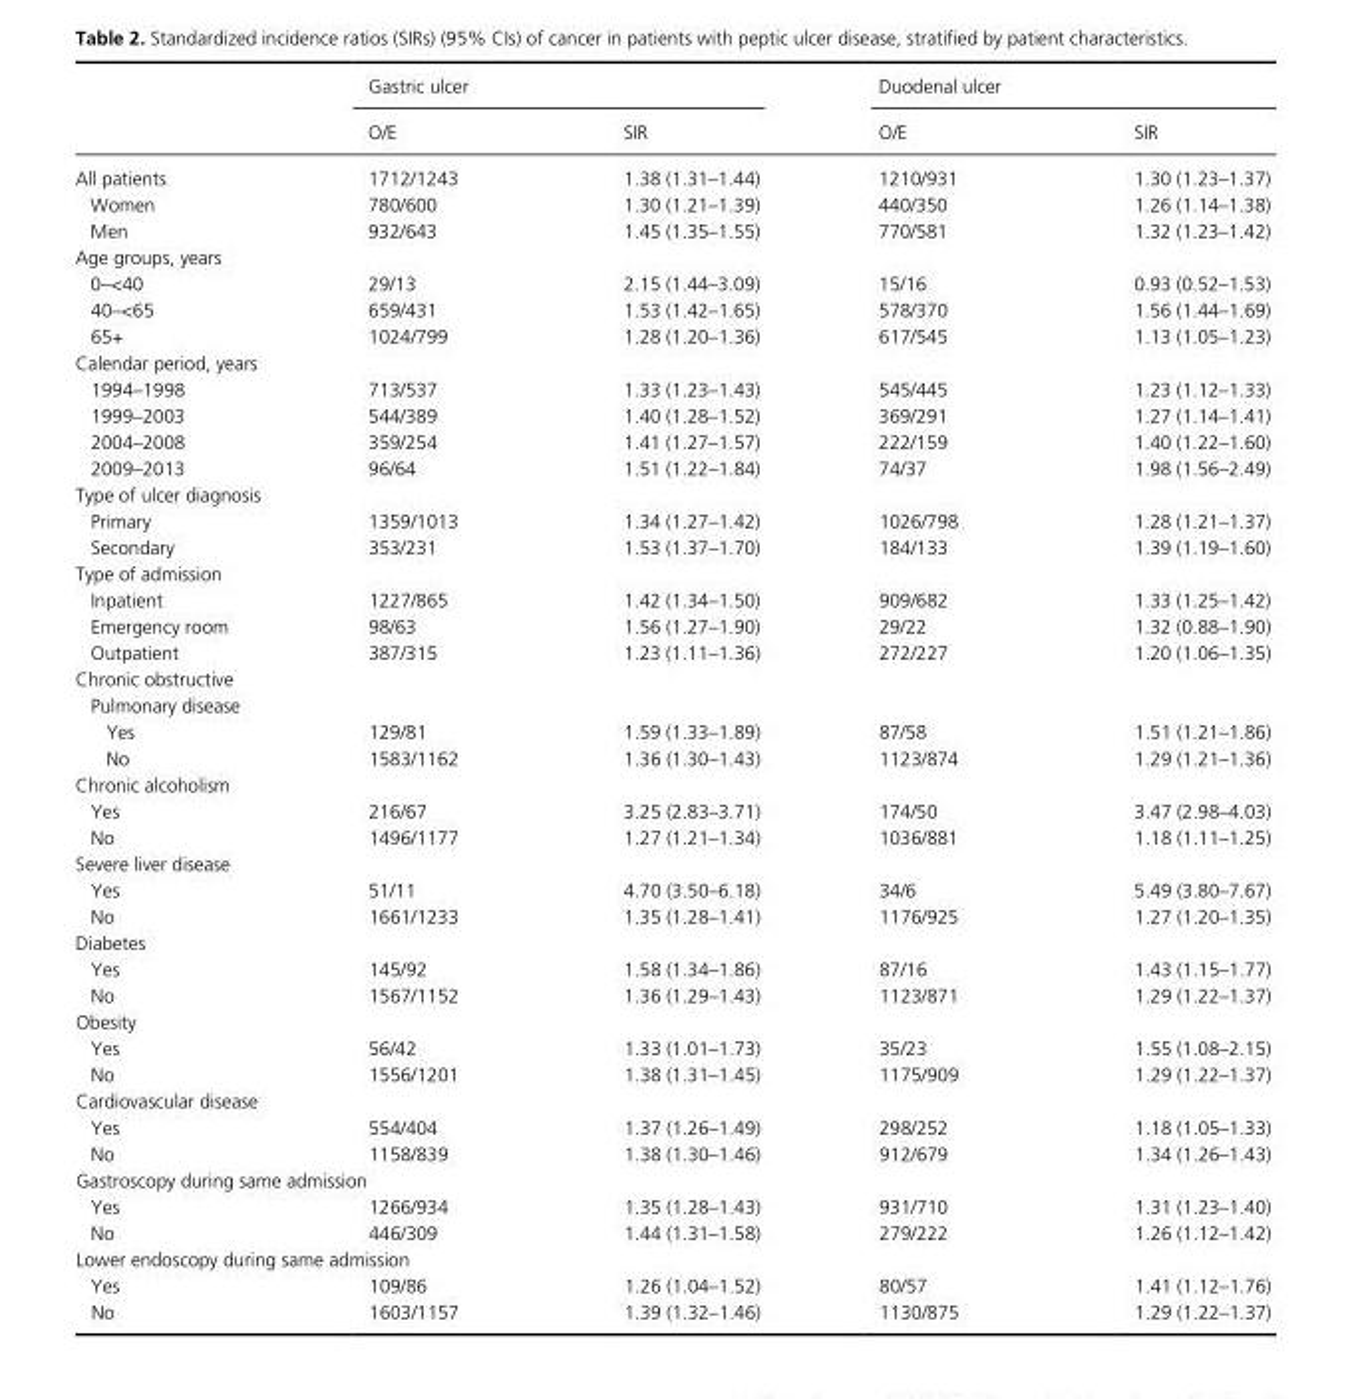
<table><thead><tr><td rowspan="2"></td><td colspan="2">Gastric ulcer</td><td colspan="2">Duodenal ulcer</td></tr><tr><td>O/E</td><td>SIR</td><td>O/E</td><td>SIR</td></tr></thead><tbody><tr><td>All patients</td><td>1712/1243</td><td>1.38 (1.31–1.44)</td><td>1210/931</td><td>1.30 (1.23–1.37)</td></tr><tr><td>Women</td><td>780/600</td><td>1.30 (1.21–1.39)</td><td>440/350</td><td>1.26 (1.14–1.38)</td></tr><tr><td>Men</td><td>932/643</td><td>1.45 (1.35–1.55)</td><td>770/581</td><td>1.32 (1.23–1.42)</td></tr><tr><td colspan="5">Age groups, years</td></tr><tr><td>0–&lt;40</td><td>29/13</td><td>2.15 (1.44–3.09)</td><td>15/16</td><td>0.93 (0.52–1.53)</td></tr><tr><td>40–&lt;65</td><td>659/431</td><td>1.53 (1.42–1.65)</td><td>578/370</td><td>1.56 (1.44–1.69)</td></tr><tr><td>65+</td><td>1024/799</td><td>1.28 (1.20–1.36)</td><td>617/545</td><td>1.13 (1.05–1.23)</td></tr><tr><td colspan="5">Calendar period, years</td></tr><tr><td>1994–1998</td><td>713/537</td><td>1.33 (1.23–1.43)</td><td>545/445</td><td>1.23 (1.12–1.33)</td></tr><tr><td>1999–2003</td><td>544/389</td><td>1.40 (1.28–1.52)</td><td>369/291</td><td>1.27 (1.14–1.41)</td></tr><tr><td>2004–2008</td><td>359/254</td><td>1.41 (1.27–1.57)</td><td>222/159</td><td>1.40 (1.22–1.60)</td></tr><tr><td>2009–2013</td><td>96/64</td><td>1.51 (1.22–1.84)</td><td>74/37</td><td>1.98 (1.56–2.49)</td></tr><tr><td colspan="5">Type of ulcer diagnosis</td></tr><tr><td>Primary</td><td>1359/1013</td><td>1.34 (1.27–1.42)</td><td>1026/798</td><td>1.28 (1.21–1.37)</td></tr><tr><td>Secondary</td><td>353/231</td><td>1.53 (1.37–1.70)</td><td>184/133</td><td>1.39 (1.19–1.60)</td></tr><tr><td colspan="5">Type of admission</td></tr><tr><td>Inpatient</td><td>1227/865</td><td>1.42 (1.34–1.50)</td><td>909/682</td><td>1.33 (1.25–1.42)</td></tr><tr><td>Emergency room</td><td>98/63</td><td>1.56 (1.27–1.90)</td><td>29/22</td><td>1.32 (0.88–1.90)</td></tr><tr><td>Outpatient</td><td>387/315</td><td>1.23 (1.11–1.36)</td><td>272/227</td><td>1.20 (1.06–1.35)</td></tr><tr><td colspan="5">Chronic obstructive</td></tr><tr><td colspan="5">Pulmonary disease</td></tr><tr><td>Yes</td><td>129/81</td><td>1.59 (1.33–1.89)</td><td>87/58</td><td>1.51 (1.21–1.86)</td></tr><tr><td>No</td><td>1583/1162</td><td>1.36 (1.30–1.43)</td><td>1123/874</td><td>1.29 (1.21–1.36)</td></tr><tr><td colspan="5">Chronic alcoholism</td></tr><tr><td>Yes</td><td>216/67</td><td>3.25 (2.83–3.71)</td><td>174/50</td><td>3.47 (2.98–4.03)</td></tr><tr><td>No</td><td>1496/1177</td><td>1.27 (1.21–1.34)</td><td>1036/881</td><td>1.18 (1.11–1.25)</td></tr><tr><td colspan="5">Severe liver disease</td></tr><tr><td>Yes</td><td>51/11</td><td>4.70 (3.50–6.18)</td><td>34/6</td><td>5.49 (3.80–7.67)</td></tr><tr><td>No</td><td>1661/1233</td><td>1.35 (1.28–1.41)</td><td>1176/925</td><td>1.27 (1.20–1.35)</td></tr><tr><td colspan="5">Diabetes</td></tr><tr><td>Yes</td><td>145/92</td><td>1.58 (1.34–1.86)</td><td>87/16</td><td>1.43 (1.15–1.77)</td></tr><tr><td>No</td><td>1567/1152</td><td>1.36 (1.29–1.43)</td><td>1123/871</td><td>1.29 (1.22–1.37)</td></tr><tr><td colspan="5">Obesity</td></tr><tr><td>Yes</td><td>56/42</td><td>1.33 (1.01–1.73)</td><td>35/23</td><td>1.55 (1.08–2.15)</td></tr><tr><td>No</td><td>1556/1201</td><td>1.38 (1.31–1.45)</td><td>1175/909</td><td>1.29 (1.22–1.37)</td></tr><tr><td colspan="5">Cardiovascular disease</td></tr><tr><td>Yes</td><td>554/404</td><td>1.37 (1.26–1.49)</td><td>298/252</td><td>1.18 (1.05–1.33)</td></tr><tr><td>No</td><td>1158/839</td><td>1.38 (1.30–1.46)</td><td>912/679</td><td>1.34 (1.26–1.43)</td></tr><tr><td colspan="5">Gastroscopy during same admission</td></tr><tr><td>Yes</td><td>1266/934</td><td>1.35 (1.28–1.43)</td><td>931/710</td><td>1.31 (1.23–1.40)</td></tr><tr><td>No</td><td>446/309</td><td>1.44 (1.31–1.58)</td><td>279/222</td><td>1.26 (1.12–1.42)</td></tr><tr><td colspan="5">Lower endoscopy during same admission</td></tr><tr><td>Yes</td><td>109/86</td><td>1.26 (1.04–1.52)</td><td>80/57</td><td>1.41 (1.12–1.76)</td></tr><tr><td>No</td><td>1603/1157</td><td>1.39 (1.32–1.46)</td><td>1130/875</td><td>1.29 (1.22–1.37)</td></tr></tbody></table>